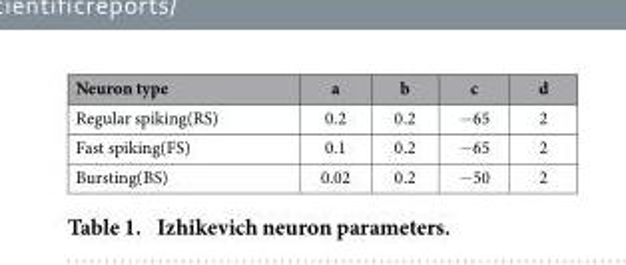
<table><thead><tr><td>Neuron type</td><td>a</td><td>b</td><td>c</td><td>d</td></tr></thead><tbody><tr><td>Regular spiking(RS)</td><td>0.2</td><td>0.2</td><td>− 65</td><td>2</td></tr><tr><td>Fast spiking(FS)</td><td>0.1</td><td>0.2</td><td>− 65</td><td>2</td></tr><tr><td>Bursting(BS)</td><td>0.02</td><td>0.2</td><td>− 50</td><td>2</td></tr></tbody></table>